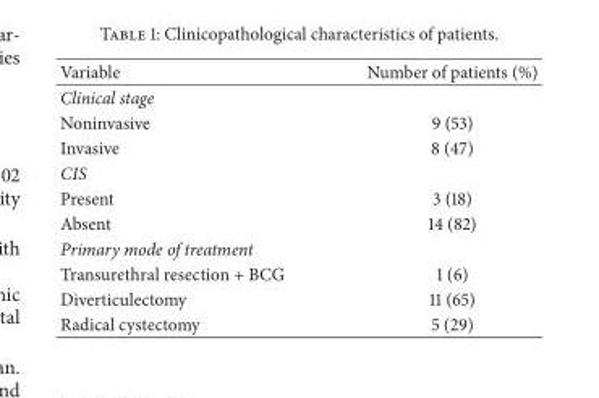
<table><thead><tr><td>Variable</td><td>Number of patients (%)</td></tr></thead><tbody><tr><td colspan="2">Clinical stage</td></tr><tr><td>Noninvasive</td><td>9 (53)</td></tr><tr><td>Invasive</td><td>8 (47)</td></tr><tr><td colspan="2">CIS</td></tr><tr><td>Present</td><td>3 (18)</td></tr><tr><td>Absent</td><td>14 (82)</td></tr><tr><td colspan="2">Primary mode of treatment</td></tr><tr><td>Transurethral resection + BCG</td><td>1 (6)</td></tr><tr><td>Diverticulectomy</td><td>11 (65)</td></tr><tr><td>Radical cystectomy</td><td>5 (29)</td></tr></tbody></table>